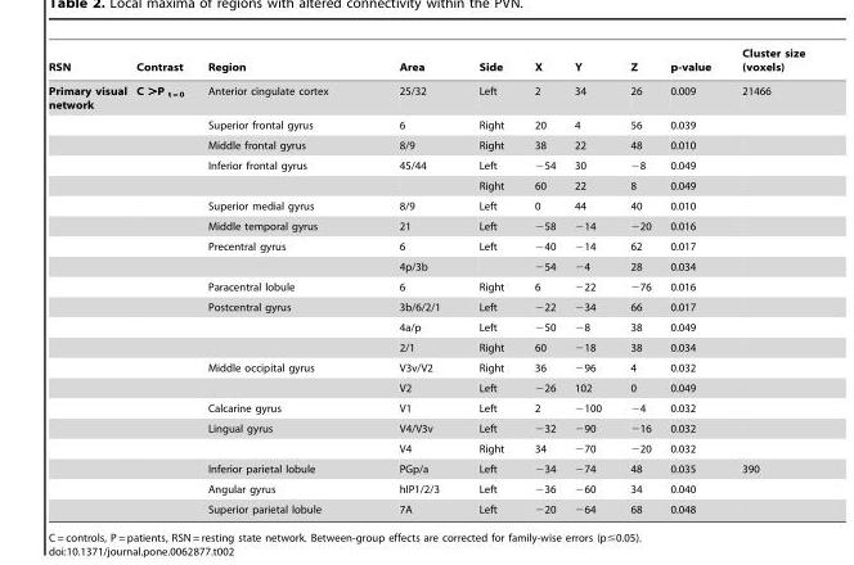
<table><thead><tr><td>RSN</td><td>Contrast</td><td>Region</td><td>Area</td><td>Side</td><td>X</td><td>Y</td><td>Z</td><td>p-value</td><td>Cluster size (voxels)</td></tr></thead><tbody><tr><td rowspan="21">Primary visual network</td><td>C &gt;P <sub>t = 0</sub></td><td>Anterior cingulate cortex</td><td>25/32</td><td>Left</td><td>2</td><td>34</td><td>26</td><td>0.009</td><td>21466</td></tr><tr><td></td><td>Superior frontal gyrus</td><td>6</td><td>Right</td><td>20</td><td>4</td><td>56</td><td>0.039</td><td></td></tr><tr><td></td><td>Middle frontal gyrus</td><td>8/9</td><td>Right</td><td>38</td><td>22</td><td>48</td><td>0.010</td><td></td></tr><tr><td></td><td>Inferior frontal gyrus</td><td>45/44</td><td>Left</td><td>−54</td><td>30</td><td>−8</td><td>0.049</td><td></td></tr><tr><td></td><td></td><td></td><td>Right</td><td>60</td><td>22</td><td>8</td><td>0.049</td><td></td></tr><tr><td></td><td>Superior medial gyrus</td><td>8/9</td><td>Left</td><td>0</td><td>44</td><td>40</td><td>0.010</td><td></td></tr><tr><td></td><td>Middle temporal gyrus</td><td>21</td><td>Left</td><td>−58</td><td>−14</td><td>−20</td><td>0.016</td><td></td></tr><tr><td></td><td>Precentral gyrus</td><td>6</td><td>Left</td><td>−40</td><td>−14</td><td>62</td><td>0.017</td><td></td></tr><tr><td></td><td></td><td>4p/3b</td><td></td><td>−54</td><td>−4</td><td>28</td><td>0.034</td><td></td></tr><tr><td></td><td>Paracentral lobule</td><td>6</td><td>Right</td><td>6</td><td>−22</td><td>−76</td><td>0.016</td><td></td></tr><tr><td></td><td>Postcentral gyrus</td><td>3b/6/2/1</td><td>Left</td><td>−22</td><td>−34</td><td>66</td><td>0.017</td><td></td></tr><tr><td></td><td></td><td>4a/p</td><td>Left</td><td>−50</td><td>−8</td><td>38</td><td>0.049</td><td></td></tr><tr><td></td><td></td><td>2/1</td><td>Right</td><td>60</td><td>−18</td><td>38</td><td>0.034</td><td></td></tr><tr><td></td><td>Middle occipital gyrus</td><td>V3v/V2</td><td>Right</td><td>36</td><td>−96</td><td>4</td><td>0.032</td><td></td></tr><tr><td></td><td></td><td>V2</td><td>Left</td><td>−26</td><td>102</td><td>0</td><td>0.049</td><td></td></tr><tr><td></td><td>Calcarine gyrus</td><td>V1</td><td>Left</td><td>2</td><td>−100</td><td>−4</td><td>0.032</td><td></td></tr><tr><td></td><td>Lingual gyrus</td><td>V4/V3v</td><td>Left</td><td>−32</td><td>−90</td><td>−16</td><td>0.032</td><td></td></tr><tr><td></td><td></td><td>V4</td><td>Right</td><td>34</td><td>−70</td><td>−20</td><td>0.032</td><td></td></tr><tr><td></td><td>Inferior parietal lobule</td><td>PGp/a</td><td>Left</td><td>−34</td><td>−74</td><td>48</td><td>0.035</td><td>390</td></tr><tr><td></td><td>Angular gyrus</td><td>hIP1/2/3</td><td>Left</td><td>−36</td><td>−60</td><td>34</td><td>0.040</td><td></td></tr><tr><td></td><td>Superior parietal lobule</td><td>7A</td><td>Left</td><td>−20</td><td>−64</td><td>68</td><td>0.048</td><td></td></tr></tbody></table>